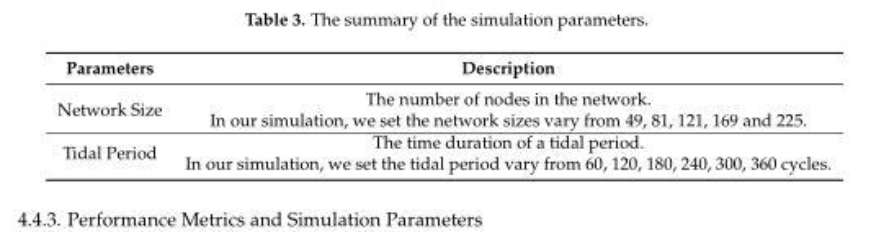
<table><thead><tr><td>Parameters</td><td>Description</td></tr></thead><tbody><tr><td>Network Size</td><td>The number of nodes in the network. In our simulation, we set the network sizes vary from 49, 81, 121, 169 and 225.</td></tr><tr><td>Tidal Period</td><td>The time duration of a tidal period. In our simulation, we set the tidal period vary from 60, 120, 180, 240, 300, 360 cycles.</td></tr></tbody></table>